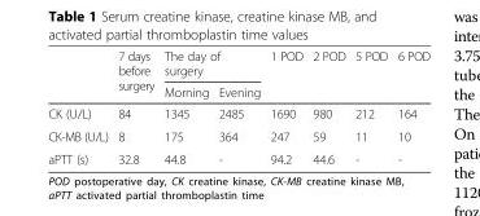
<table><thead><tr><td rowspan="2"></td><td rowspan="2">7 days before surgery</td><td colspan="2">The day of surgery</td><td rowspan="2">1 POD</td><td rowspan="2">2 POD</td><td rowspan="2">5 POD</td><td rowspan="2">6 POD</td></tr><tr><td>Morning</td><td>Evening</td></tr></thead><tbody><tr><td>CK (U/L)</td><td>84</td><td>1345</td><td>2485</td><td>1690</td><td>980</td><td>212</td><td>164</td></tr><tr><td>CK-MB (U/L)</td><td>8</td><td>175</td><td>364</td><td>247</td><td>59</td><td>11</td><td>10</td></tr><tr><td>aPTT (s)</td><td>32.8</td><td>44.8</td><td>-</td><td>94.2</td><td>44.6</td><td>-</td><td>-</td></tr></tbody></table>